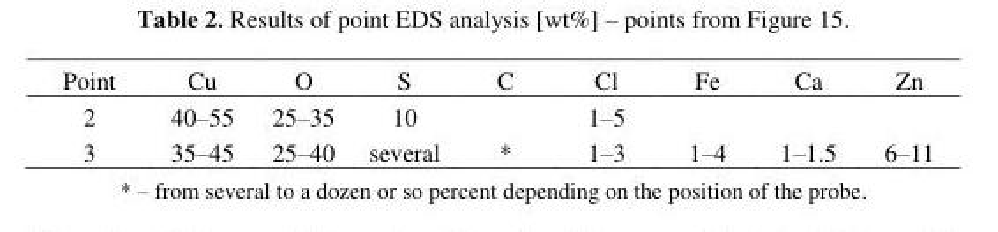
<table><thead><tr><td>Point</td><td>Cu</td><td>O</td><td>S</td><td>C</td><td>Cl</td><td>Fe</td><td>Ca</td><td>Zn</td></tr></thead><tbody><tr><td>2</td><td>40–55</td><td>25–35</td><td>10</td><td></td><td>1–5</td><td></td><td></td><td></td></tr><tr><td>3</td><td>35–45</td><td>25–40</td><td>several</td><td>*</td><td>1–3</td><td>1–4</td><td>1–1.5</td><td>6–11</td></tr></tbody></table>